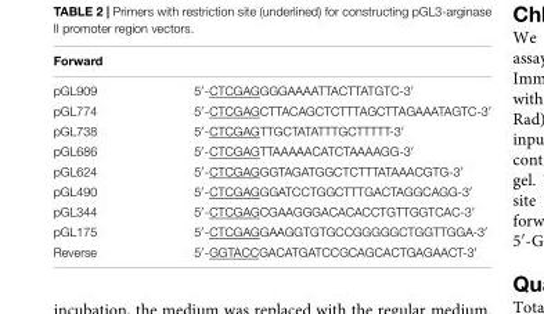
<table><thead><tr><td>Forward</td><td></td></tr></thead><tbody><tr><td>pGL909</td><td>5′-CTCGAGGGGAAAATTACTTATGTC-3′</td></tr><tr><td>pGL774</td><td>5′-CTCGAGCTTACAGCTCTTTAGCTTAGAAATAGTC-3′</td></tr><tr><td>pGL738</td><td>5′-CTCGAGTTGCTATATTTGCTTTTT-3′</td></tr><tr><td>pGL686</td><td>5′-CTCGAGTTAAAAACATCTAAAAGG-3′</td></tr><tr><td>pGL624</td><td>5′-CTCGAGGGTAGATGGCTCTTTATAAACGTG-3′</td></tr><tr><td>pGL490</td><td>5′-CTCGAGGGATCCTGGCTTTGACTAGGCAGG-3′</td></tr><tr><td>pGL344</td><td>5′-CTCGAGCGAAGGGACACACCTGTTGGTCAC-3′</td></tr><tr><td>pGL175</td><td>5′-CTCGAGGAAGGTGTGCCGGGGGCTGGTTGGA-3′</td></tr><tr><td>Reverse</td><td>5′-GGTACCGACATGATCCGCAGCACTGAGAACT-3′</td></tr></tbody></table>